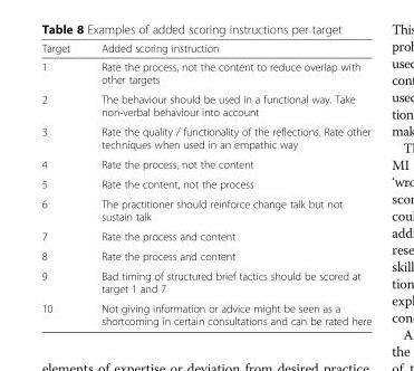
<table><thead><tr><td>Target</td><td>Added scoring instruction</td></tr></thead><tbody><tr><td>1</td><td>Rate the process, not the content to reduce overlap with other targets</td></tr><tr><td>2</td><td>The behaviour should be used in a functional way. Take non-verbal behaviour into account</td></tr><tr><td>3</td><td>Rate the quality / functionality of the reflections. Rate other techniques when used in an empathic way</td></tr><tr><td>4</td><td>Rate the process, not the content</td></tr><tr><td>5</td><td>Rate the content, not the process</td></tr><tr><td>6</td><td>The practitioner should reinforce change talk but not sustain talk</td></tr><tr><td>7</td><td>Rate the process and content</td></tr><tr><td>8</td><td>Rate the process and content</td></tr><tr><td>9</td><td>Bad timing of structured brief tactics should be scored at target 1 and 7</td></tr><tr><td>10</td><td>Not giving information or advice might be seen as a shortcoming in certain consultations and can be rated here</td></tr></tbody></table>